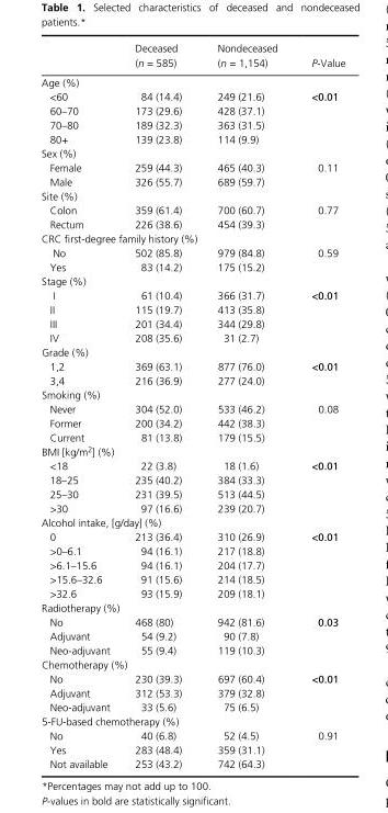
<table><thead><tr><td></td><td>Deceased (n = 585)</td><td>Nondeceased (n = 1,154)</td><td>P- Value</td></tr></thead><tbody><tr><td colspan="4">Age (%)</td></tr><tr><td>&lt;60</td><td>84 (14.4)</td><td>249 (21.6)</td><td rowspan="4">&lt;0.01</td></tr><tr><td>60–70</td><td>173 (29.6)</td><td>428 (37.1)</td></tr><tr><td>70–80</td><td>189 (32.3)</td><td>363 (31.5)</td></tr><tr><td>80+</td><td>139 (23.8)</td><td>114 (9.9)</td></tr><tr><td colspan="4">Sex (%)</td></tr><tr><td>Female</td><td>259 (44.3)</td><td>465 (40.3)</td><td rowspan="2">0.11</td></tr><tr><td>Male</td><td>326 (55.7)</td><td>689 (59.7)</td></tr><tr><td colspan="4">Site (%)</td></tr><tr><td>Colon</td><td>359 (61.4)</td><td>700 (60.7)</td><td rowspan="2">0.77</td></tr><tr><td>Rectum</td><td>226 (38.6)</td><td>454 (39.3)</td></tr><tr><td colspan="4">CRC first- degree family history (%)</td></tr><tr><td>No</td><td>502 (85.8)</td><td>979 (84.8)</td><td rowspan="2">0.59</td></tr><tr><td>Yes</td><td>83 (14.2)</td><td>175 (15.2)</td></tr><tr><td colspan="4">Stage (%)</td></tr><tr><td>I</td><td>61 (10.4)</td><td>366 (31.7)</td><td rowspan="4">&lt;0.01</td></tr><tr><td>II</td><td>115 (19.7)</td><td>413 (35.8)</td></tr><tr><td>III</td><td>201 (34.4)</td><td>344 (29.8)</td></tr><tr><td>IV</td><td>208 (35.6)</td><td>31 (2.7)</td></tr><tr><td colspan="4">Grade (%)</td></tr><tr><td>1,2</td><td>369 (63.1)</td><td>877 (76.0)</td><td rowspan="2">&lt;0.01</td></tr><tr><td>3,4</td><td>216 (36.9)</td><td>277 (24.0)</td></tr><tr><td colspan="4">Smoking (%)</td></tr><tr><td>Never</td><td>304 (52.0)</td><td>533 (46.2)</td><td rowspan="3">0.08</td></tr><tr><td>Former</td><td>200 (34.2)</td><td>442 (38.3)</td></tr><tr><td>Current</td><td>81 (13.8)</td><td>179 (15.5)</td></tr><tr><td colspan="4">BMI [kg/m<sup>2</sup>] (%)</td></tr><tr><td>&lt;18</td><td>22 (3.8)</td><td>18 (1.6)</td><td rowspan="4">&lt;0.01</td></tr><tr><td>18–25</td><td>235 (40.2)</td><td>384 (33.3)</td></tr><tr><td>25–30</td><td>231 (39.5)</td><td>513 (44.5)</td></tr><tr><td>&gt;30</td><td>97 (16.6)</td><td>239 (20.7)</td></tr><tr><td colspan="4">Alcohol intake, [g/day] (%)</td></tr><tr><td>0</td><td>213 (36.4)</td><td>310 (26.9)</td><td rowspan="5">&lt;0.01</td></tr><tr><td>&gt;0–6.1</td><td>94 (16.1)</td><td>217 (18.8)</td></tr><tr><td>&gt;6.1–15.6</td><td>94 (16.1)</td><td>204 (17.7)</td></tr><tr><td>&gt;15.6–32.6</td><td>91 (15.6)</td><td>214 (18.5)</td></tr><tr><td>&gt;32.6</td><td>93 (15.9)</td><td>209 (18.1)</td></tr><tr><td colspan="4">Radiotherapy (%)</td></tr><tr><td>No</td><td>468 (80)</td><td>942 (81.6)</td><td rowspan="3">0.03</td></tr><tr><td>Adjuvant</td><td>54 (9.2)</td><td>90 (7.8)</td></tr><tr><td>Neo- adjuvant</td><td>55 (9.4)</td><td>119 (10.3)</td></tr><tr><td colspan="4">Chemotherapy (%)</td></tr><tr><td>No</td><td>230 (39.3)</td><td>697 (60.4)</td><td rowspan="3">&lt;0.01</td></tr><tr><td>Adjuvant</td><td>312 (53.3)</td><td>379 (32.8)</td></tr><tr><td>Neo- adjuvant</td><td>33 (5.6)</td><td>75 (6.5)</td></tr><tr><td colspan="4">5- FU- based chemotherapy (%)</td></tr><tr><td>No</td><td>40 (6.8)</td><td>52 (4.5)</td><td rowspan="3">0.91</td></tr><tr><td>Yes</td><td>283 (48.4)</td><td>359 (31.1)</td></tr><tr><td>Not available</td><td>253 (43.2)</td><td>742 (64.3)</td></tr></tbody></table>